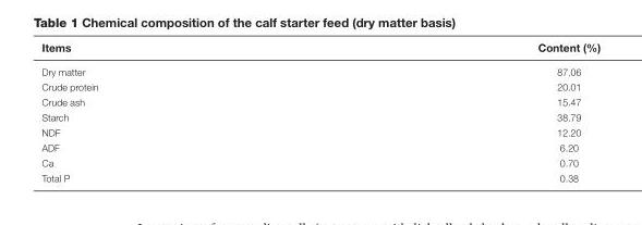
<table><thead><tr><td>Items</td><td>Content (%)</td></tr></thead><tbody><tr><td>Dry matter</td><td>87.06</td></tr><tr><td>Crude protein</td><td>20.01</td></tr><tr><td>Crude ash</td><td>15.47</td></tr><tr><td>Starch</td><td>38.79</td></tr><tr><td>NDF</td><td>12.20</td></tr><tr><td>ADF</td><td>6.20</td></tr><tr><td>Ca</td><td>0.70</td></tr><tr><td>Total P</td><td>0.38</td></tr></tbody></table>